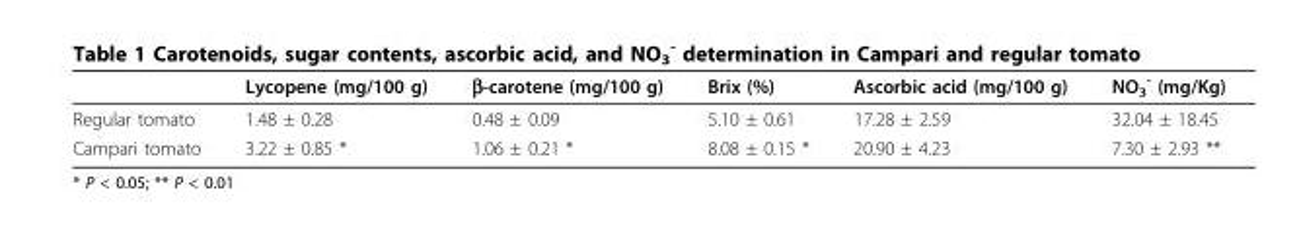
<table><thead><tr><td></td><td>Lycopene (mg/100 g)</td><td>β-carotene (mg/100 g)</td><td>Brix (%)</td><td>Ascorbic acid (mg/100 g)</td><td>NO<sub>3</sub> <sup>-</sup> (mg/Kg)</td></tr></thead><tbody><tr><td>Regular tomato</td><td>1.48 ± 0.28</td><td>0.48 ± 0.09</td><td>5.10 ± 0.61</td><td>17.28 ± 2.59</td><td>32.04 ± 18.45</td></tr><tr><td>Campari tomato</td><td>3.22 ± 0.85 *</td><td>1.06 ± 0.21 *</td><td>8.08 ± 0.15 *</td><td>20.90 ± 4.23</td><td>7.30 ± 2.93 **</td></tr></tbody></table>